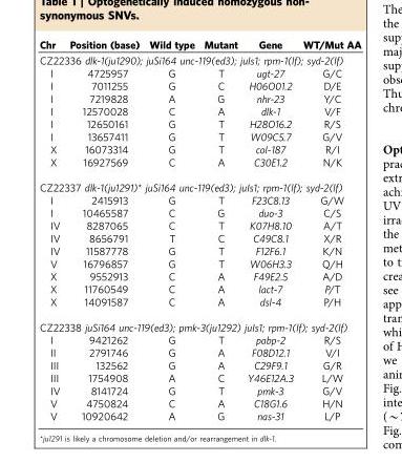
<table><thead><tr><td>Chr</td><td>Position (base)</td><td>Wild type</td><td>Mutant</td><td>Gene</td><td>WT/Mut AA</td></tr></thead><tbody><tr><td colspan="6">CZ22336 dlk-1(ju1290); juSi164 unc-119(ed3); juIs1; rpm-1(lf); syd-2(lf)</td></tr><tr><td>I</td><td>4725957</td><td>G</td><td>T</td><td>ugt-27</td><td>G/C</td></tr><tr><td>I</td><td>7011255</td><td>G</td><td>C</td><td>H06O01.2</td><td>D/E</td></tr><tr><td>I</td><td>7219828</td><td>A</td><td>G</td><td>nhr-23</td><td>Y/C</td></tr><tr><td>I</td><td>12570028</td><td>C</td><td>A</td><td>dlk-1</td><td>V/F</td></tr><tr><td>I</td><td>12650161</td><td>G</td><td>T</td><td>H28O16.2</td><td>R/S</td></tr><tr><td>I</td><td>13657411</td><td>G</td><td>T</td><td>W09C5.7</td><td>G/V</td></tr><tr><td>X</td><td>16073314</td><td>G</td><td>T</td><td>col-187</td><td>R/I</td></tr><tr><td>X</td><td>16927569</td><td>C</td><td>A</td><td>C30E1.2</td><td>N/K</td></tr><tr><td colspan="6">CZ22337 dlk-1(ju1291)* juSi164 unc-119(ed3); juIs1; rpm-1(lf); syd-2(lf)</td></tr><tr><td>I</td><td>2415913</td><td>G</td><td>T</td><td>F23C8.13</td><td>G/W</td></tr><tr><td>I</td><td>10465587</td><td>C</td><td>G</td><td>duo-3</td><td>C/S</td></tr><tr><td>IV</td><td>8287065</td><td>C</td><td>T</td><td>K07H8.10</td><td>A/T</td></tr><tr><td>IV</td><td>8656791</td><td>T</td><td>C</td><td>C49C8.1</td><td>X/R</td></tr><tr><td>IV</td><td>11587778</td><td>G</td><td>T</td><td>F12F6.1</td><td>K/N</td></tr><tr><td>V</td><td>16796857</td><td>G</td><td>T</td><td>W06H3.3</td><td>Q/H</td></tr><tr><td>X</td><td>9552913</td><td>C</td><td>A</td><td>F49E2.5</td><td>A/D</td></tr><tr><td>X</td><td>11760549</td><td>C</td><td>A</td><td>lact-7</td><td>P/T</td></tr><tr><td>X</td><td>14091587</td><td>C</td><td>A</td><td>dsl-4</td><td>P/H</td></tr><tr><td colspan="6">CZ22338 juSi164 unc-119(ed3); pmk-3(ju1292) juIs1; rpm-1(lf); syd-2(lf)</td></tr><tr><td>I</td><td>9421262</td><td>G</td><td>T</td><td>pabp-2</td><td>R/S</td></tr><tr><td>II</td><td>2791746</td><td>G</td><td>A</td><td>F08D12.1</td><td>V/I</td></tr><tr><td>III</td><td>132562</td><td>G</td><td>A</td><td>C29F9.1</td><td>G/R</td></tr><tr><td>III</td><td>1754908</td><td>A</td><td>C</td><td>Y46E12A.3</td><td>L/W</td></tr><tr><td>IV</td><td>8141724</td><td>G</td><td>T</td><td>pmk-3</td><td>G/V</td></tr><tr><td>V</td><td>4750824</td><td>C</td><td>A</td><td>C18G1.6</td><td>H/N</td></tr><tr><td>V</td><td>10920642</td><td>A</td><td>G</td><td>nas-31</td><td>L/P</td></tr></tbody></table>